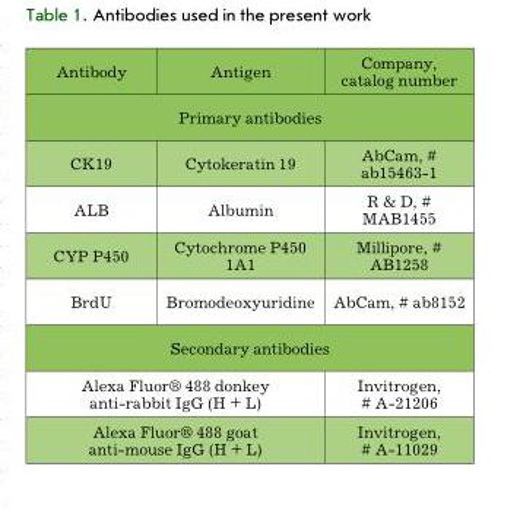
<table><thead><tr><td>Antibody</td><td>Antigen</td><td>company, catalog number</td></tr></thead><tbody><tr><td colspan="3">Primary antibodies</td></tr><tr><td>cK19</td><td>cytokeratin 19</td><td>Abcam, # ab15463-1</td></tr><tr><td>ALB</td><td>Albumin</td><td>r &amp; D, # MAB1455</td></tr><tr><td>cYP P450</td><td>cytochrome P450 1A1</td><td>Millipore, # AB1258</td></tr><tr><td>Brdu</td><td>Bromodeoxyuridine</td><td>Abcam, # ab8152</td></tr><tr><td colspan="3">Secondary antibodies</td></tr><tr><td colspan="2">Alexa Fluor® 488 donkey anti-rabbit IgG (H + L)</td><td>Invitrogen, # A-21206</td></tr><tr><td colspan="2">Alexa Fluor® 488 goat anti-mouse IgG (H + L)</td><td>Invitrogen, # A-11029</td></tr></tbody></table>